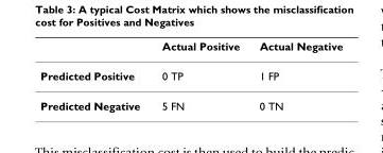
<table><thead><tr><td></td><td>Actual Positive</td><td>Actual Negative</td></tr></thead><tbody><tr><td>Predicted Positive</td><td>0 TP</td><td>1 FP</td></tr><tr><td>Predicted Negative</td><td>5 FN</td><td>0 TN</td></tr></tbody></table>